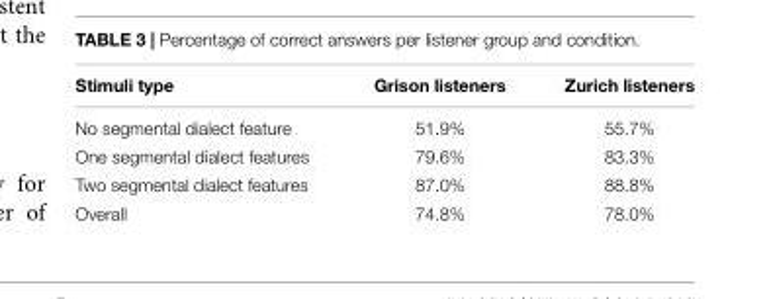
<table><thead><tr><td>Stimuli type</td><td>Grison listeners</td><td>Zurich listeners</td></tr></thead><tbody><tr><td>No segmental dialect feature</td><td>51.9%</td><td>55.7%</td></tr><tr><td>One segmental dialect features</td><td>79.6%</td><td>83.3%</td></tr><tr><td>Two segmental dialect features</td><td>87.0%</td><td>88.8%</td></tr><tr><td>Overall</td><td>74.8%</td><td>78.0%</td></tr></tbody></table>